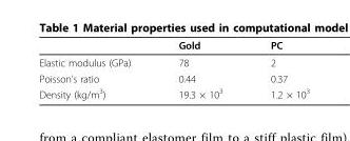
<table><thead><tr><td></td><td>Gold</td><td>PC</td></tr></thead><tbody><tr><td>Elastic modulus (GPa)</td><td>78</td><td>2</td></tr><tr><td>Poisson’s ratio</td><td>0.44</td><td>0.37</td></tr><tr><td>Density (kg/m<sup>3</sup>)</td><td>19.3 × 10<sup>3</sup></td><td>1.2 × 10<sup>3</sup></td></tr></tbody></table>